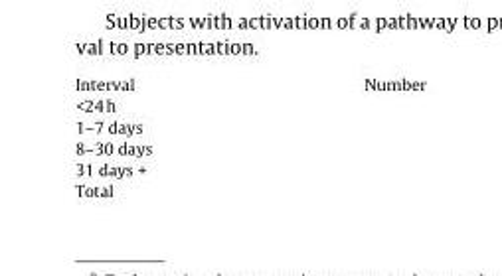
<table><tbody><tr><td>Interval</td><td>Number</td></tr><tr><td colspan="2">&lt;24 h</td></tr><tr><td colspan="2">1–7 days</td></tr><tr><td colspan="2">8–30 days</td></tr><tr><td colspan="2">31 days +</td></tr><tr><td>Total</td><td></td></tr></tbody></table>